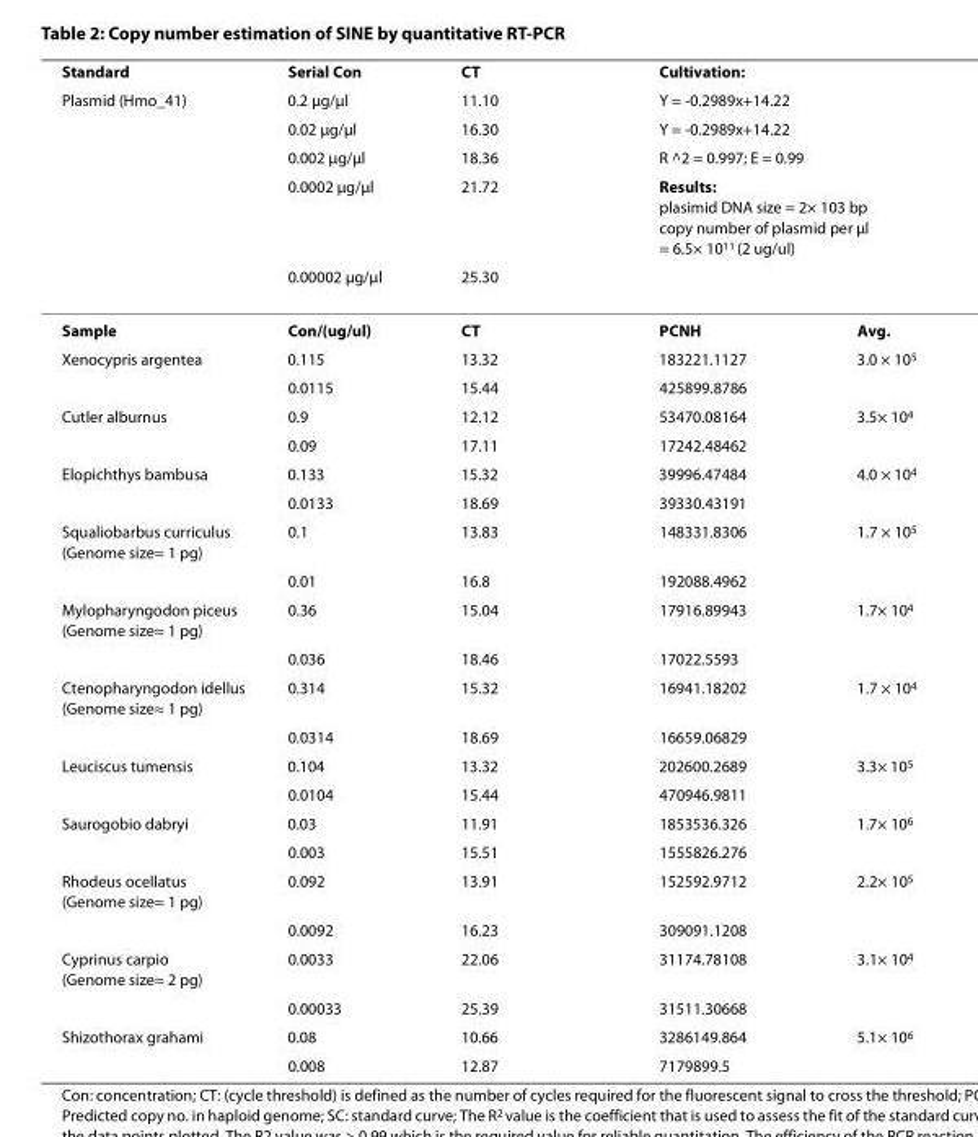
<table><thead><tr><td rowspan="6">Standard Plasmid (Hmo_41)</td><td rowspan="6">Serial Con 0.2 μg/μl 0.02 μg/μl 0.002 μg/μl 0.0002 μg/μl 0.00002 μg/μl</td><td rowspan="6">CT 11.10 16.30 18.36 21.72 25.30</td><td rowspan="5" colspan="2">Cultivation: Y = -0.2989x+14.22 Y = -0.2989x+14.22 R ^2 = 0.997; E = 0.99 Results: plasimid DNA size = 2× 103 bp copy number of plasmid per μl = 6.5× 1011 (2 ug/ul)</td></tr><tr></tr><tr></tr><tr></tr><tr></tr><tr><td></td><td></td></tr></thead><tbody><tr><td>Sample</td><td>Con/(ug/ul)</td><td>CT</td><td>PCNH</td><td>Avg.</td></tr><tr><td rowspan="2">Xenocypris argentea</td><td>0.115</td><td>13.32</td><td>183221.1127</td><td>3.0 × 10<sup>5</sup></td></tr><tr><td>0.0115</td><td>15.44</td><td>425899.8786</td><td></td></tr><tr><td rowspan="2">Cutler alburnus</td><td>0.9</td><td>12.12</td><td>53470.08164</td><td>3.5× 10<sup>4</sup></td></tr><tr><td>0.09</td><td>17.11</td><td>17242.48462</td><td></td></tr><tr><td rowspan="2">Elopichthys bambusa</td><td>0.133</td><td>15.32</td><td>39996.47484</td><td>4.0 × 10<sup>4</sup></td></tr><tr><td>0.0133</td><td>18.69</td><td>39330.43191</td><td></td></tr><tr><td rowspan="2">Squaliobarbus curriculus (Genome size≈ 1 pg)</td><td>0.1</td><td>13.83</td><td>148331.8306</td><td>1.7 × 10<sup>5</sup></td></tr><tr><td>0.01</td><td>16.8</td><td>192088.4962</td><td></td></tr><tr><td rowspan="2">Mylopharyngodon piceus (Genome size≈ 1 pg)</td><td>0.36</td><td>15.04</td><td>17916.89943</td><td>1.7× 10<sup>4</sup></td></tr><tr><td>0.036</td><td>18.46</td><td>17022.5593</td><td></td></tr><tr><td rowspan="2">Ctenopharyngodon idellus (Genome size≈ 1 pg)</td><td>0.314</td><td>15.32</td><td>16941.18202</td><td>1.7 × 10<sup>4</sup></td></tr><tr><td>0.0314</td><td>18.69</td><td>16659.06829</td><td></td></tr><tr><td rowspan="2">Leuciscus tumensis</td><td>0.104</td><td>13.32</td><td>202600.2689</td><td>3.3× 10<sup>5</sup></td></tr><tr><td>0.0104</td><td>15.44</td><td>470946.9811</td><td></td></tr><tr><td rowspan="2">Saurogobio dabryi</td><td>0.03</td><td>11.91</td><td>1853536.326</td><td>1.7× 10<sup>6</sup></td></tr><tr><td>0.003</td><td>15.51</td><td>1555826.276</td><td></td></tr><tr><td rowspan="2">Rhodeus ocellatus (Genome size≈ 1 pg)</td><td>0.092</td><td>13.91</td><td>152592.9712</td><td>2.2× 10<sup>5</sup></td></tr><tr><td>0.0092</td><td>16.23</td><td>309091.1208</td><td></td></tr><tr><td rowspan="2">Cyprinus carpio (Genome size≈ 2 pg)</td><td>0.0033</td><td>22.06</td><td>31174.78108</td><td>3.1× 10<sup>4</sup></td></tr><tr><td>0.00033</td><td>25.39</td><td>31511.30668</td><td></td></tr><tr><td rowspan="2">Shizothorax grahami</td><td>0.08</td><td>10.66</td><td>3286149.864</td><td>5.1× 10<sup>6</sup></td></tr><tr><td>0.008</td><td>12.87</td><td>7179899.5</td><td></td></tr></tbody></table>